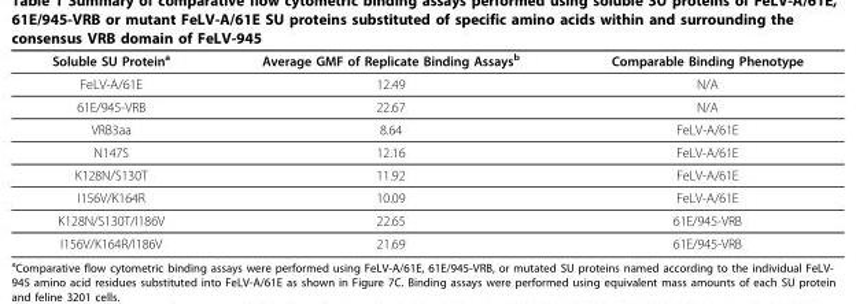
<table><thead><tr><td>Soluble SU Protein<sup>a</sup></td><td>Average GMF of Replicate Binding Assays<sup>b</sup></td><td>Comparable Binding Phenotype</td></tr></thead><tbody><tr><td>FeLV-A/61E</td><td>12.49</td><td>N/A</td></tr><tr><td>61E/945-VRB</td><td>22.67</td><td>N/A</td></tr><tr><td>VRB3aa</td><td>8.64</td><td>FeLV-A/61E</td></tr><tr><td>N147S</td><td>12.16</td><td>FeLV-A/61E</td></tr><tr><td>K128N/S130T</td><td>11.92</td><td>FeLV-A/61E</td></tr><tr><td>I156V/K164R</td><td>10.09</td><td>FeLV-A/61E</td></tr><tr><td>K128N/S130T/I186V</td><td>22.65</td><td>61E/945-VRB</td></tr><tr><td>I156V/K164R/I186V</td><td>21.69</td><td>61E/945-VRB</td></tr></tbody></table>